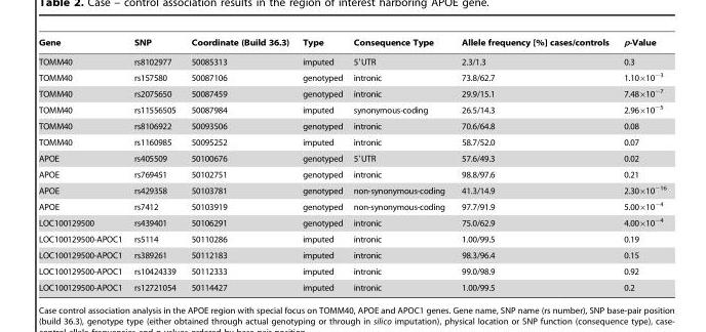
<table><thead><tr><td>Gene</td><td>SNP</td><td>Coordinate (Build 36.3)</td><td>Type</td><td>Consequence Type</td><td>Allele frequency [%] cases/controls</td><td>p-Value</td></tr></thead><tbody><tr><td>TOMM40</td><td>rs8102977</td><td>50085313</td><td>imputed</td><td>5′UTR</td><td>2.3/1.3</td><td>0.3</td></tr><tr><td>TOMM40</td><td>rs157580</td><td>50087106</td><td>genotyped</td><td>intronic</td><td>73.8/62.7</td><td>1.10×10<sup>−3</sup></td></tr><tr><td>TOMM40</td><td>rs2075650</td><td>50087459</td><td>genotyped</td><td>intronic</td><td>29.9/15.1</td><td>7.48×10<sup>−7</sup></td></tr><tr><td>TOMM40</td><td>rs11556505</td><td>50087984</td><td>imputed</td><td>synonymous-coding</td><td>26.5/14.3</td><td>2.96×10<sup>−5</sup></td></tr><tr><td>TOMM40</td><td>rs8106922</td><td>50093506</td><td>genotyped</td><td>intronic</td><td>70.6/64.8</td><td>0.08</td></tr><tr><td>TOMM40</td><td>rs1160985</td><td>50095252</td><td>imputed</td><td>intronic</td><td>58.7/52.0</td><td>0.07</td></tr><tr><td>APOE</td><td>rs405509</td><td>50100676</td><td>genotyped</td><td>5′UTR</td><td>57.6/49.3</td><td>0.02</td></tr><tr><td>APOE</td><td>rs769451</td><td>50102751</td><td>genotyped</td><td>intronic</td><td>98.8/97.6</td><td>0.21</td></tr><tr><td>APOE</td><td>rs429358</td><td>50103781</td><td>genotyped</td><td>non-synonymous-coding</td><td>41.3/14.9</td><td>2.30×10<sup>−16</sup></td></tr><tr><td>APOE</td><td>rs7412</td><td>50103919</td><td>genotyped</td><td>non-synonymous-coding</td><td>97.7/91.9</td><td>5.00×10<sup>−4</sup></td></tr><tr><td>LOC100129500</td><td>rs439401</td><td>50106291</td><td>genotyped</td><td>intronic</td><td>75.0/62.9</td><td>4.00×10<sup>−4</sup></td></tr><tr><td>LOC100129500-APOC1</td><td>rs5114</td><td>50110286</td><td>imputed</td><td>intronic</td><td>1.00/99.5</td><td>0.19</td></tr><tr><td>LOC100129500-APOC1</td><td>rs389261</td><td>50112183</td><td>imputed</td><td>intronic</td><td>98.3/96.4</td><td>0.15</td></tr><tr><td>LOC100129500-APOC1</td><td>rs10424339</td><td>50112333</td><td>imputed</td><td>intronic</td><td>99.0/98.9</td><td>0.92</td></tr><tr><td>LOC100129500-APOC1</td><td>rs12721054</td><td>50114427</td><td>imputed</td><td>intronic</td><td>1.00/99.5</td><td>0.2</td></tr></tbody></table>